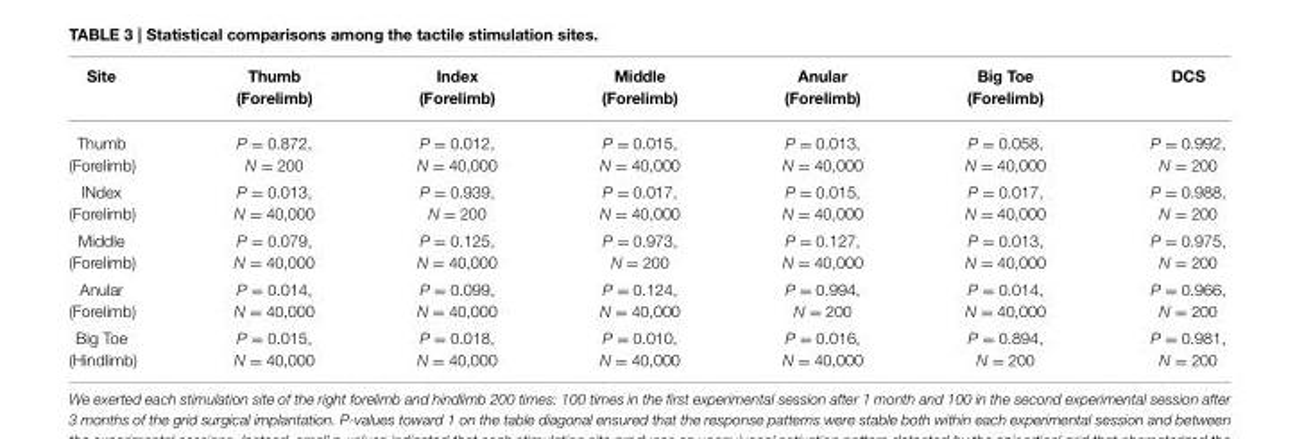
<table><thead><tr><td>Site</td><td>Thumb (Forelimb)</td><td>Index (Forelimb)</td><td>Middle (Forelimb)</td><td>Anular (Forelimb)</td><td>Big Toe (Forelimb)</td><td>DCS</td></tr></thead><tbody><tr><td>Thumb (Forelimb)</td><td>P = 0.872, N = 200</td><td>P = 0.012, N = 40,000</td><td>P = 0.015, N = 40,000</td><td>P = 0.013, N = 40,000</td><td>P = 0.058, N = 40,000</td><td>P = 0.992, N = 200</td></tr><tr><td>INdex (Forelimb)</td><td>P = 0.013, N = 40,000</td><td>P = 0.939, N = 200</td><td>P = 0.017, N = 40,000</td><td>P = 0.015, N = 40,000</td><td>P = 0.017, N = 40,000</td><td>P = 0.988, N = 200</td></tr><tr><td>Middle (Forelimb)</td><td>P = 0.079, N = 40,000</td><td>P = 0.125, N = 40,000</td><td>P = 0.973, N = 200</td><td>P = 0.127, N = 40,000</td><td>P = 0.013, N = 40,000</td><td>P = 0.975, N = 200</td></tr><tr><td>Anular (Forelimb)</td><td>P = 0.014, N = 40,000</td><td>P = 0.099, N = 40,000</td><td>P = 0.124, N = 40,000</td><td>P = 0.994, N = 200</td><td>P = 0.014, N = 40,000</td><td>P = 0.966, N = 200</td></tr><tr><td>Big Toe (Hindlimb)</td><td>P = 0.015, N = 40,000</td><td>P = 0.018, N = 40,000</td><td>P = 0.010, N = 40,000</td><td>P = 0.016, N = 40,000</td><td>P = 0.894, N = 200</td><td>P = 0.981, N = 200</td></tr></tbody></table>